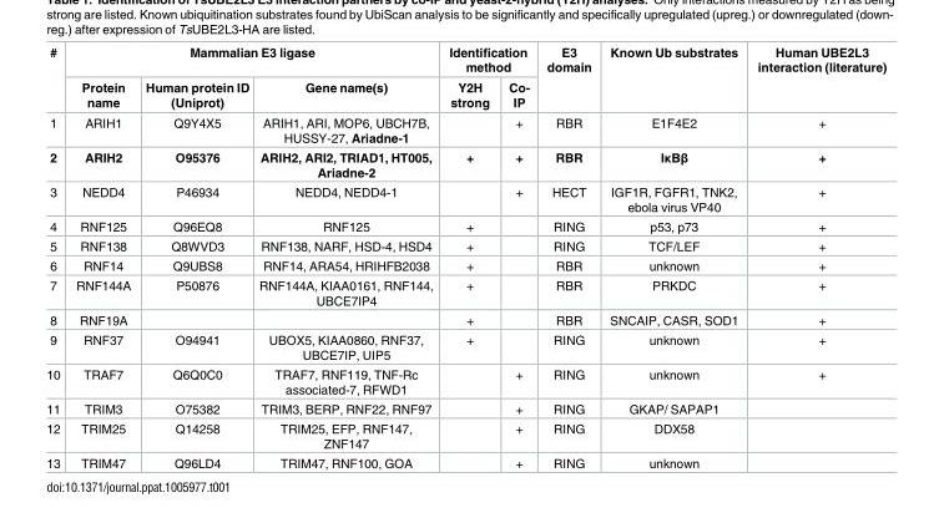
<table><thead><tr><td rowspan="2">#</td><td colspan="3">Mammalian E3 ligase</td><td colspan="2">Identification method</td><td rowspan="2">E3 domain</td><td rowspan="2">Known Ub substrates</td><td rowspan="2">Human UBE2L3 interaction (literature)</td></tr><tr><td>Protein name</td><td>Human protein ID (Uniprot)</td><td>Gene name(s)</td><td>Y2H strong</td><td>Co- IP</td></tr></thead><tbody><tr><td>1</td><td>ARIH1</td><td>Q9Y4X5</td><td>ARIH1, ARI, MOP6, UBCH7B, HUSSY-27, Ariadne-1</td><td></td><td>+</td><td>RBR</td><td>E1F4E2</td><td>+</td></tr><tr><td>2</td><td>ARIH2</td><td>O95376</td><td>ARIH2, ARI2, TRIAD1, HT005, Ariadne-2</td><td>+</td><td>+</td><td>RBR</td><td>IκBβ</td><td>+</td></tr><tr><td>3</td><td>NEDD4</td><td>P46934</td><td>NEDD4, NEDD4-1</td><td></td><td>+</td><td>HECT</td><td>IGF1R, FGFR1, TNK2, ebola virus VP40</td><td>+</td></tr><tr><td>4</td><td>RNF125</td><td>Q96EQ8</td><td>RNF125</td><td>+</td><td></td><td>RING</td><td>p53, p73</td><td>+</td></tr><tr><td>5</td><td>RNF138</td><td>Q8WVD3</td><td>RNF138, NARF, HSD-4, HSD4</td><td>+</td><td></td><td>RING</td><td>TCF/LEF</td><td>+</td></tr><tr><td>6</td><td>RNF14</td><td>Q9UBS8</td><td>RNF14, ARA54, HRIHFB2038</td><td>+</td><td></td><td>RBR</td><td>unknown</td><td>+</td></tr><tr><td>7</td><td>RNF144A</td><td>P50876</td><td>RNF144A, KIAA0161, RNF144, UBCE7IP4</td><td>+</td><td></td><td>RBR</td><td>PRKDC</td><td>+</td></tr><tr><td>8</td><td>RNF19A</td><td></td><td></td><td>+</td><td></td><td>RBR</td><td>SNCAIP, CASR, SOD1</td><td>+</td></tr><tr><td>9</td><td>RNF37</td><td>O94941</td><td>UBOX5, KIAA0860, RNF37, UBCE7IP, UIP5</td><td>+</td><td></td><td>RING</td><td>unknown</td><td>+</td></tr><tr><td>10</td><td>TRAF7</td><td>Q6Q0C0</td><td>TRAF7, RNF119, TNF-Rc associated-7, RFWD1</td><td></td><td>+</td><td>RING</td><td>unknown</td><td>+</td></tr><tr><td>11</td><td>TRIM3</td><td>O75382</td><td>TRIM3, BERP, RNF22, RNF97</td><td></td><td>+</td><td>RING</td><td>GKAP/ SAPAP1</td><td></td></tr><tr><td>12</td><td>TRIM25</td><td>Q14258</td><td>TRIM25, EFP, RNF147, ZNF147</td><td></td><td>+</td><td>RING</td><td>DDX58</td><td></td></tr><tr><td>13</td><td>TRIM47</td><td>Q96LD4</td><td>TRIM47, RNF100, GOA</td><td></td><td>+</td><td>RING</td><td>unknown</td><td></td></tr></tbody></table>